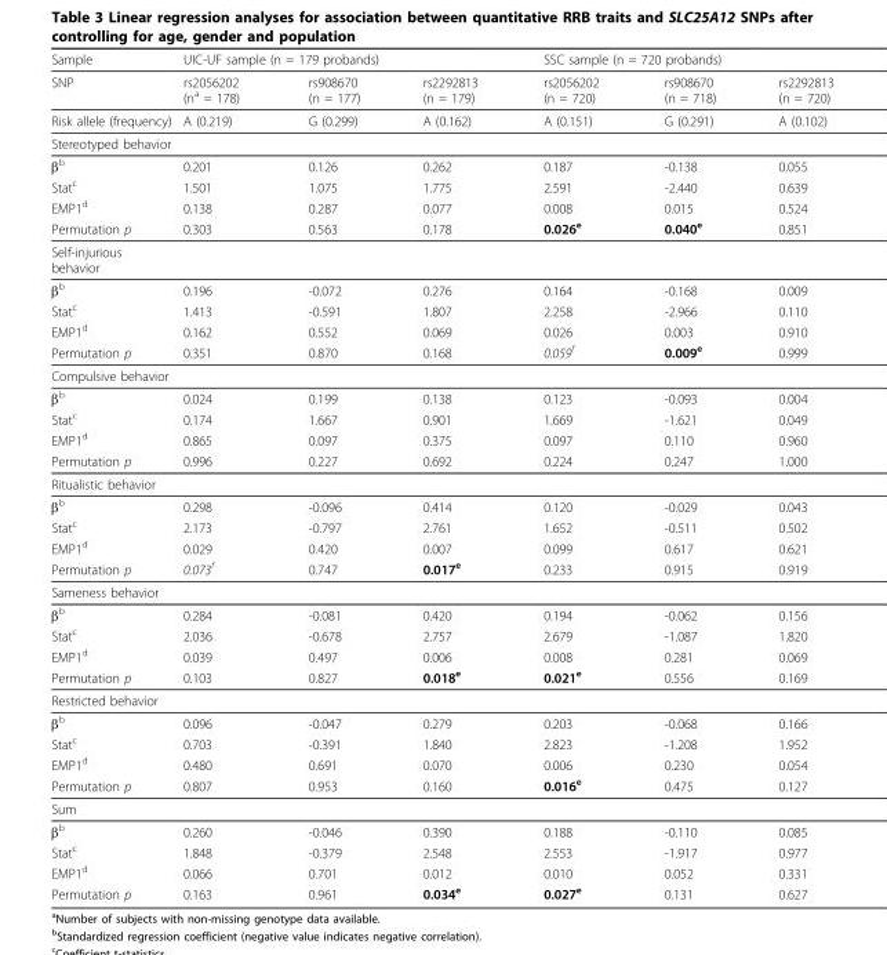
<table><thead><tr><td rowspan="2">Sample SNP</td><td colspan="3">UIC-UF sample (n = 179 probands)</td><td colspan="3">SSC sample (n = 720 probands)</td></tr><tr><td>rs2056202 (n<sup>a</sup> = 178)</td><td>rs908670 (n = 177)</td><td>rs2292813 (n = 179)</td><td>rs2056202 (n = 720)</td><td>rs908670 (n = 718)</td><td>rs2292813 (n = 720)</td></tr></thead><tbody><tr><td>Risk allele (frequency)</td><td>A (0.219)</td><td>G (0.299)</td><td>A (0.162)</td><td>A (0.151)</td><td>G (0.291)</td><td>A (0.102)</td></tr><tr><td colspan="7">Stereotyped behavior</td></tr><tr><td>β<sup>b</sup></td><td>0.201</td><td>0.126</td><td>0.262</td><td>0.187</td><td>-0.138</td><td>0.055</td></tr><tr><td>Stat<sup>c</sup></td><td>1.501</td><td>1.075</td><td>1.775</td><td>2.591</td><td>-2.440</td><td>0.639</td></tr><tr><td>EMP1<sup>d</sup></td><td>0.138</td><td>0.287</td><td>0.077</td><td>0.008</td><td>0.015</td><td>0.524</td></tr><tr><td>Permutation p</td><td>0.303</td><td>0.563</td><td>0.178</td><td>0.026<sup>e</sup></td><td>0.040<sup>e</sup></td><td>0.851</td></tr><tr><td colspan="7">Self-injurious behavior</td></tr><tr><td>β<sup>b</sup></td><td>0.196</td><td>-0.072</td><td>0.276</td><td>0.164</td><td>-0.168</td><td>0.009</td></tr><tr><td>Stat<sup>c</sup></td><td>1.413</td><td>-0.591</td><td>1.807</td><td>2.258</td><td>-2.966</td><td>0.110</td></tr><tr><td>EMP1<sup>d</sup></td><td>0.162</td><td>0.552</td><td>0.069</td><td>0.026</td><td>0.003</td><td>0.910</td></tr><tr><td>Permutation p</td><td>0.351</td><td>0.870</td><td>0.168</td><td>0.059<sup>f</sup></td><td>0.009<sup>e</sup></td><td>0.999</td></tr><tr><td colspan="7">Compulsive behavior</td></tr><tr><td>β<sup>b</sup></td><td>0.024</td><td>0.199</td><td>0.138</td><td>0.123</td><td>-0.093</td><td>0.004</td></tr><tr><td>Stat<sup>c</sup></td><td>0.174</td><td>1.667</td><td>0.901</td><td>1.669</td><td>-1.621</td><td>0.049</td></tr><tr><td>EMP1<sup>d</sup></td><td>0.865</td><td>0.097</td><td>0.375</td><td>0.097</td><td>0.110</td><td>0.960</td></tr><tr><td>Permutation p</td><td>0.996</td><td>0.227</td><td>0.692</td><td>0.224</td><td>0.247</td><td>1.000</td></tr><tr><td colspan="7">Ritualistic behavior</td></tr><tr><td>β<sup>b</sup></td><td>0.298</td><td>-0.096</td><td>0.414</td><td>0.120</td><td>-0.029</td><td>0.043</td></tr><tr><td>Stat<sup>c</sup></td><td>2.173</td><td>-0.797</td><td>2.761</td><td>1.652</td><td>-0.511</td><td>0.502</td></tr><tr><td>EMP1<sup>d</sup></td><td>0.029</td><td>0.420</td><td>0.007</td><td>0.099</td><td>0.617</td><td>0.621</td></tr><tr><td>Permutation p</td><td>0.073<sup>f</sup></td><td>0.747</td><td>0.017<sup>e</sup></td><td>0.233</td><td>0.915</td><td>0.919</td></tr><tr><td colspan="7">Sameness behavior</td></tr><tr><td>β<sup>b</sup></td><td>0.284</td><td>-0.081</td><td>0.420</td><td>0.194</td><td>-0.062</td><td>0.156</td></tr><tr><td>Stat<sup>c</sup></td><td>2.036</td><td>-0.678</td><td>2.757</td><td>2.679</td><td>-1.087</td><td>1.820</td></tr><tr><td>EMP1<sup>d</sup></td><td>0.039</td><td>0.497</td><td>0.006</td><td>0.008</td><td>0.281</td><td>0.069</td></tr><tr><td>Permutation p</td><td>0.103</td><td>0.827</td><td>0.018<sup>e</sup></td><td>0.021<sup>e</sup></td><td>0.556</td><td>0.169</td></tr><tr><td colspan="7">Restricted behavior</td></tr><tr><td>β<sup>b</sup></td><td>0.096</td><td>-0.047</td><td>0.279</td><td>0.203</td><td>-0.068</td><td>0.166</td></tr><tr><td>Stat<sup>c</sup></td><td>0.703</td><td>-0.391</td><td>1.840</td><td>2.823</td><td>-1.208</td><td>1.952</td></tr><tr><td>EMP1<sup>d</sup></td><td>0.480</td><td>0.691</td><td>0.070</td><td>0.006</td><td>0.230</td><td>0.054</td></tr><tr><td>Permutation p</td><td>0.807</td><td>0.953</td><td>0.160</td><td>0.016<sup>e</sup></td><td>0.475</td><td>0.127</td></tr><tr><td colspan="7">Sum</td></tr><tr><td>β<sup>b</sup></td><td>0.260</td><td>-0.046</td><td>0.390</td><td>0.188</td><td>-0.110</td><td>0.085</td></tr><tr><td>Stat<sup>c</sup></td><td>1.848</td><td>-0.379</td><td>2.548</td><td>2.553</td><td>-1.917</td><td>0.977</td></tr><tr><td>EMP1<sup>d</sup></td><td>0.066</td><td>0.701</td><td>0.012</td><td>0.010</td><td>0.052</td><td>0.331</td></tr><tr><td>Permutation p</td><td>0.163</td><td>0.961</td><td>0.034<sup>e</sup></td><td>0.027<sup>e</sup></td><td>0.131</td><td>0.627</td></tr></tbody></table>